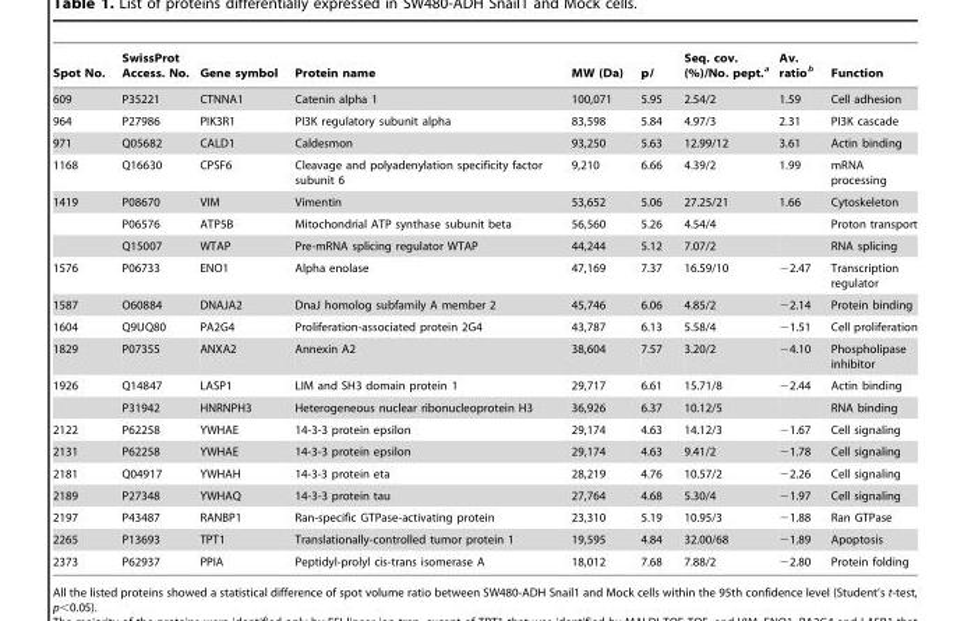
<table><thead><tr><td>Spot No.</td><td>SwissProt Access. No.</td><td>Gene symbol</td><td>Protein name</td><td>MW (Da)</td><td>pI</td><td>Seq. cov. (%)/No. pept.<sup>a</sup></td><td>Av. ratio<sup>b</sup></td><td>Function</td></tr></thead><tbody><tr><td>609</td><td>P35221</td><td>CTNNA1</td><td>Catenin alpha 1</td><td>100,071</td><td>5.95</td><td>2.54/2</td><td>1.59</td><td>Cell adhesion</td></tr><tr><td>964</td><td>P27986</td><td>PIK3R1</td><td>PI3K regulatory subunit alpha</td><td>83,598</td><td>5.84</td><td>4.97/3</td><td>2.31</td><td>PI3K cascade</td></tr><tr><td>971</td><td>Q05682</td><td>CALD1</td><td>Caldesmon</td><td>93,250</td><td>5.63</td><td>12.99/12</td><td>3.61</td><td>Actin binding</td></tr><tr><td>1168</td><td>Q16630</td><td>CPSF6</td><td>Cleavage and polyadenylation specificity factor subunit 6</td><td>9,210</td><td>6.66</td><td>4.39/2</td><td>1.99</td><td>mRNA processing</td></tr><tr><td rowspan="3">1419</td><td>P08670</td><td>VIM</td><td>Vimentin</td><td>53,652</td><td>5.06</td><td>27.25/21</td><td>1.66</td><td>Cytoskeleton</td></tr><tr><td>P06576</td><td>ATP5B</td><td>Mitochondrial ATP synthase subunit beta</td><td>56,560</td><td>5.26</td><td>4.54/4</td><td></td><td>Proton transport</td></tr><tr><td>Q15007</td><td>WTAP</td><td>Pre-mRNA splicing regulator WTAP</td><td>44,244</td><td>5.12</td><td>7.07/2</td><td></td><td>RNA splicing</td></tr><tr><td>1576</td><td>P06733</td><td>ENO1</td><td>Alpha enolase</td><td>47,169</td><td>7.37</td><td>16.59/10</td><td>−2.47</td><td>Transcription regulator</td></tr><tr><td>1587</td><td>O60884</td><td>DNAJA2</td><td>DnaJ homolog subfamily A member 2</td><td>45,746</td><td>6.06</td><td>4.85/2</td><td>−2.14</td><td>Protein binding</td></tr><tr><td>1604</td><td>Q9UQ80</td><td>PA2G4</td><td>Proliferation-associated protein 2G4</td><td>43,787</td><td>6.13</td><td>5.58/4</td><td>−1.51</td><td>Cell proliferation</td></tr><tr><td>1829</td><td>P07355</td><td>ANXA2</td><td>Annexin A2</td><td>38,604</td><td>7.57</td><td>3.20/2</td><td>−4.10</td><td>Phospholipase inhibitor</td></tr><tr><td rowspan="2">1926</td><td>Q14847</td><td>LASP1</td><td>LIM and SH3 domain protein 1</td><td>29,717</td><td>6.61</td><td>15.71/8</td><td>−2.44</td><td>Actin binding</td></tr><tr><td>P31942</td><td>HNRNPH3</td><td>Heterogeneous nuclear ribonucleoprotein H3</td><td>36,926</td><td>6.37</td><td>10.12/5</td><td></td><td>RNA binding</td></tr><tr><td>2122</td><td>P62258</td><td>YWHAE</td><td>14-3-3 protein epsilon</td><td>29,174</td><td>4.63</td><td>14.12/3</td><td>−1.67</td><td>Cell signaling</td></tr><tr><td>2131</td><td>P62258</td><td>YWHAE</td><td>14-3-3 protein epsilon</td><td>29,174</td><td>4.63</td><td>9.41/2</td><td>−1.78</td><td>Cell signaling</td></tr><tr><td>2181</td><td>Q04917</td><td>YWHAH</td><td>14-3-3 protein eta</td><td>28,219</td><td>4.76</td><td>10.57/2</td><td>−2.26</td><td>Cell signaling</td></tr><tr><td>2189</td><td>P27348</td><td>YWHAQ</td><td>14-3-3 protein tau</td><td>27,764</td><td>4.68</td><td>5.30/4</td><td>−1.97</td><td>Cell signaling</td></tr><tr><td>2197</td><td>P43487</td><td>RANBP1</td><td>Ran-specific GTPase-activating protein</td><td>23,310</td><td>5.19</td><td>10.95/3</td><td>−1.88</td><td>Ran GTPase</td></tr><tr><td>2265</td><td>P13693</td><td>TPT1</td><td>Translationally-controlled tumor protein 1</td><td>19,595</td><td>4.84</td><td>32.00/68</td><td>−1.89</td><td>Apoptosis</td></tr><tr><td>2373</td><td>P62937</td><td>PPIA</td><td>Peptidyl-prolyl cis-trans isomerase A</td><td>18,012</td><td>7.68</td><td>7.88/2</td><td>−2.80</td><td>Protein folding</td></tr></tbody></table>